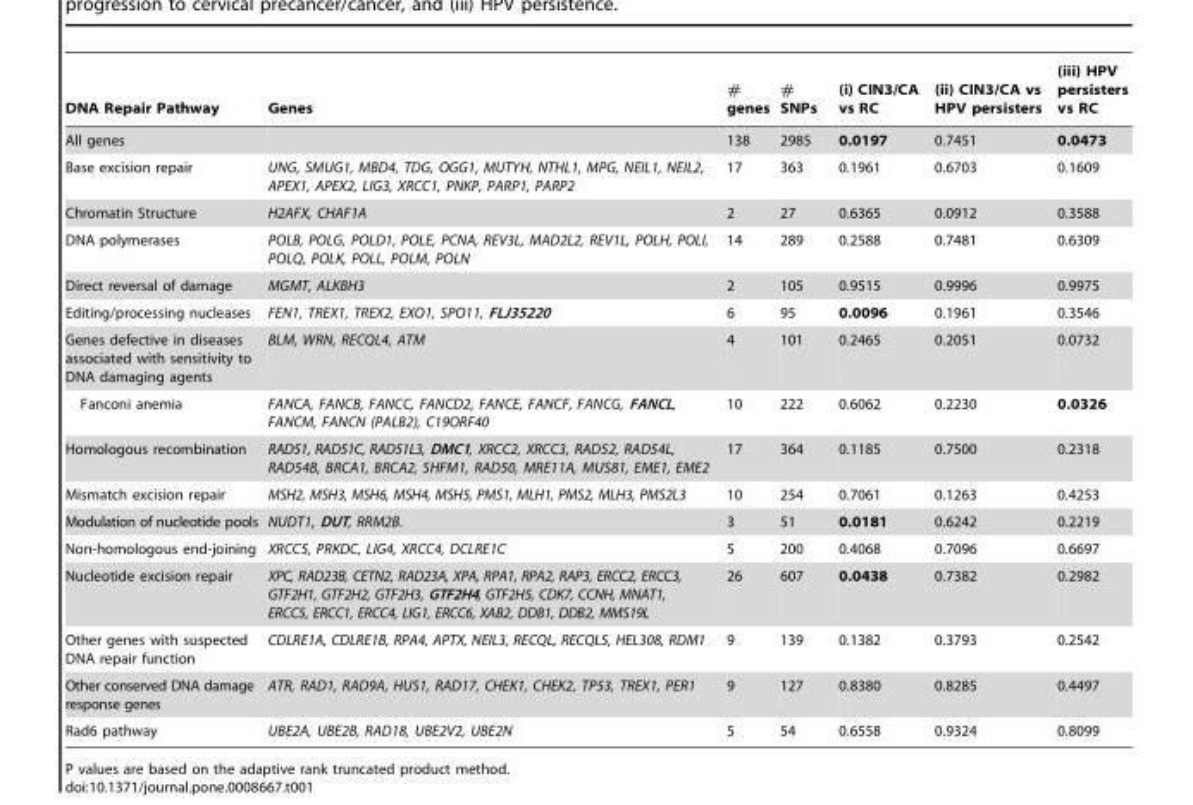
<table><thead><tr><td>DNA Repair Pathway</td><td>Genes</td><td># genes</td><td># SNPs</td><td>(i) CIN3/CA vs RC</td><td>(ii) CIN3/CA vs HPV persisters</td><td>(iii) HPV persisters vs RC</td></tr></thead><tbody><tr><td>All genes</td><td></td><td>138</td><td>2985</td><td>0.0197</td><td>0.7451</td><td>0.0473</td></tr><tr><td>Base excision repair</td><td>UNG, SMUG1, MBD4, TDG, OGG1, MUTYH, NTHL1, MPG, NEIL1, NEIL2, APEX1, APEX2, LIG3, XRCC1, PNKP, PARP1, PARP2</td><td>17</td><td>363</td><td>0.1961</td><td>0.6703</td><td>0.1609</td></tr><tr><td>Chromatin Structure</td><td>H2AFX, CHAF1A</td><td>2</td><td>27</td><td>0.6365</td><td>0.0912</td><td>0.3588</td></tr><tr><td>DNA polymerases</td><td>POLB, POLG, POLD1, POLE, PCNA, REV3L, MAD2L2, REV1L, POLH, POLI, POLQ, POLK, POLL, POLM, POLN</td><td>14</td><td>289</td><td>0.2588</td><td>0.7481</td><td>0.6309</td></tr><tr><td>Direct reversal of damage</td><td>MGMT, ALKBH3</td><td>2</td><td>105</td><td>0.9515</td><td>0.9996</td><td>0.9975</td></tr><tr><td>Editing/processing nucleases</td><td>FEN1, TREX1, TREX2, EXO1, SPO11, FLJ35220</td><td>6</td><td>95</td><td>0.0096</td><td>0.1961</td><td>0.3546</td></tr><tr><td>Genes defective in diseases associated with sensitivity to DNA damaging agents</td><td>BLM, WRN, RECQL4, ATM</td><td>4</td><td>101</td><td>0.2465</td><td>0.2051</td><td>0.0732</td></tr><tr><td>Fanconi anemia</td><td>FANCA, FANCB, FANCC, FANCD2, FANCE, FANCF, FANCG, FANCL, FANCM, FANCN (PALB2), C19ORF40</td><td>10</td><td>222</td><td>0.6062</td><td>0.2230</td><td>0.0326</td></tr><tr><td>Homologous recombination</td><td>RAD51, RAD51C, RAD51L3, DMC1, XRCC2, XRCC3, RAD52, RAD54L, RAD54B, BRCA1, BRCA2, SHFM1, RAD50, MRE11A, MUS81, EME1, EME2</td><td>17</td><td>364</td><td>0.1185</td><td>0.7500</td><td>0.2318</td></tr><tr><td>Mismatch excision repair</td><td>MSH2, MSH3, MSH6, MSH4, MSH5, PMS1, MLH1, PMS2, MLH3, PMS2L3</td><td>10</td><td>254</td><td>0.7061</td><td>0.1263</td><td>0.4253</td></tr><tr><td>Modulation of nucleotide pools</td><td>NUDT1, DUT, RRM2B.</td><td>3</td><td>51</td><td>0.0181</td><td>0.6242</td><td>0.2219</td></tr><tr><td>Non-homologous end-joining</td><td>XRCC5, PRKDC, LIG4, XRCC4, DCLRE1C</td><td>5</td><td>200</td><td>0.4068</td><td>0.7096</td><td>0.6697</td></tr><tr><td>Nucleotide excision repair</td><td>XPC, RAD23B, CETN2, RAD23A, XPA, RPA1, RPA2, RAP3, ERCC2, ERCC3, GTF2H1, GTF2H2, GTF2H3, GTF2H4, GTF2H5, CDK7, CCNH, MNAT1, ERCC5, ERCC1, ERCC4, LIG1, ERCC6, XAB2, DDB1, DDB2, MMS19L</td><td>26</td><td>607</td><td>0.0438</td><td>0.7382</td><td>0.2982</td></tr><tr><td>Other genes with suspected DNA repair function</td><td>CDLRE1A, CDLRE1B, RPA4, APTX, NEIL3, RECQL, RECQL5, HEL308, RDM1</td><td>9</td><td>139</td><td>0.1382</td><td>0.3793</td><td>0.2542</td></tr><tr><td>Other conserved DNA damage response genes</td><td>ATR, RAD1, RAD9A, HUS1, RAD17, CHEK1, CHEK2, TP53, TREX1, PER1</td><td>9</td><td>127</td><td>0.8380</td><td>0.8285</td><td>0.4497</td></tr><tr><td>Rad6 pathway</td><td>UBE2A, UBE2B, RAD18, UBE2V2, UBE2N</td><td>5</td><td>54</td><td>0.6558</td><td>0.9324</td><td>0.8099</td></tr></tbody></table>